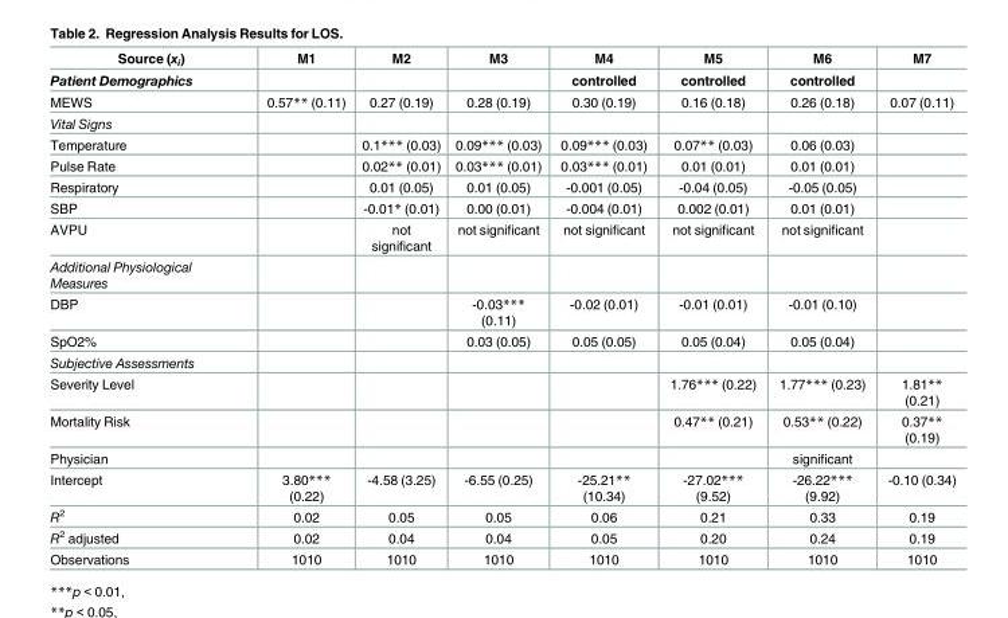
<table><thead><tr><td rowspan="2">Source (x<sub>i</sub>) Patient Demographics</td><td rowspan="2">M1</td><td rowspan="2">M2</td><td rowspan="2">M3</td><td rowspan="2">M4 controlled</td><td rowspan="2">M5 controlled</td><td rowspan="2">M6 controlled</td><td rowspan="2">M7</td></tr><tr></tr></thead><tbody><tr><td>MEWS</td><td>0.57** (0.11)</td><td>0.27 (0.19)</td><td>0.28 (0.19)</td><td>0.30 (0.19)</td><td>0.16 (0.18)</td><td>0.26 (0.18)</td><td>0.07 (0.11)</td></tr><tr><td colspan="8">Vital Signs</td></tr><tr><td>Temperature</td><td></td><td>0.1*** (0.03)</td><td>0.09*** (0.03)</td><td>0.09*** (0.03)</td><td>0.07** (0.03)</td><td>0.06 (0.03)</td><td></td></tr><tr><td>Pulse Rate</td><td></td><td>0.02** (0.01)</td><td>0.03*** (0.01)</td><td>0.03*** (0.01)</td><td>0.01 (0.01)</td><td>0.01 (0.01)</td><td></td></tr><tr><td>Respiratory</td><td></td><td>0.01 (0.05)</td><td>0.01 (0.05)</td><td>-0.001 (0.05)</td><td>-0.04 (0.05)</td><td>-0.05 (0.05)</td><td></td></tr><tr><td>SBP</td><td></td><td>-0.01* (0.01)</td><td>0.00 (0.01)</td><td>-0.004 (0.01)</td><td>0.002 (0.01)</td><td>0.01 (0.01)</td><td></td></tr><tr><td>AVPU</td><td></td><td>not significant</td><td>not significant</td><td>not significant</td><td>not significant</td><td>not significant</td><td></td></tr><tr><td colspan="8">Additional Physiological Measures</td></tr><tr><td>DBP</td><td></td><td></td><td>-0.03*** (0.11)</td><td>-0.02 (0.01)</td><td>-0.01 (0.01)</td><td>-0.01 (0.10)</td><td></td></tr><tr><td>SpO2%</td><td></td><td></td><td>0.03 (0.05)</td><td>0.05 (0.05)</td><td>0.05 (0.04)</td><td>0.05 (0.04)</td><td></td></tr><tr><td colspan="8">Subjective Assessments</td></tr><tr><td>Severity Level</td><td></td><td></td><td></td><td></td><td>1.76*** (0.22)</td><td>1.77*** (0.23)</td><td>1.81** (0.21)</td></tr><tr><td>Mortality Risk</td><td></td><td></td><td></td><td></td><td>0.47** (0.21)</td><td>0.53** (0.22)</td><td>0.37** (0.19)</td></tr><tr><td>Physician</td><td></td><td></td><td></td><td></td><td></td><td>significant</td><td></td></tr><tr><td>Intercept</td><td>3.80*** (0.22)</td><td>-4.58 (3.25)</td><td>-6.55 (0.25)</td><td>-25.21** (10.34)</td><td>-27.02*** (9.52)</td><td>-26.22*** (9.92)</td><td>-0.10 (0.34)</td></tr><tr><td>R<sup>2</sup></td><td>0.02</td><td>0.05</td><td>0.05</td><td>0.06</td><td>0.21</td><td>0.33</td><td>0.19</td></tr><tr><td>R<sup>2</sup> adjusted</td><td>0.02</td><td>0.04</td><td>0.04</td><td>0.05</td><td>0.20</td><td>0.24</td><td>0.19</td></tr><tr><td>Observations</td><td>1010</td><td>1010</td><td>1010</td><td>1010</td><td>1010</td><td>1010</td><td>1010</td></tr></tbody></table>